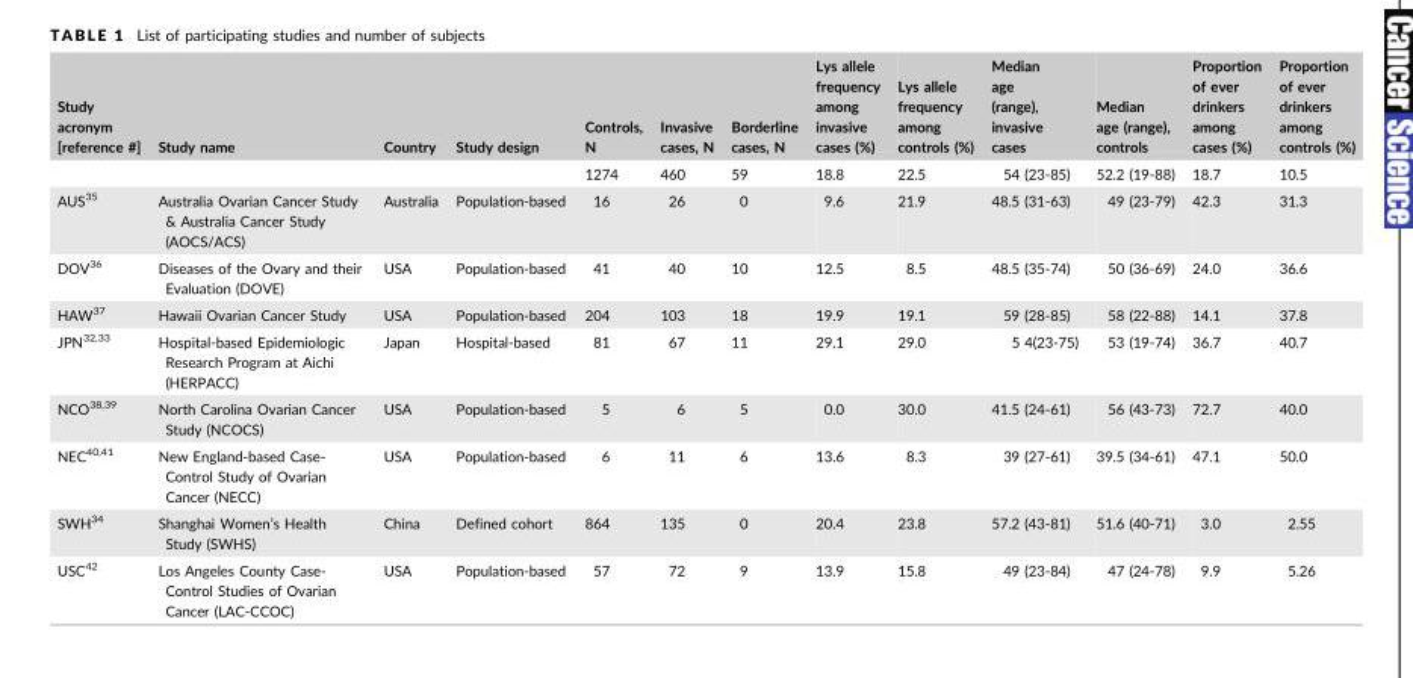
<table><thead><tr><td>Study acronym [reference #]</td><td>Study name</td><td>Country</td><td>Study design</td><td>Controls, N</td><td>Invasive cases, N</td><td>Borderline cases, N</td><td>Lys allele frequency among invasive cases (%)</td><td>Lys allele frequency among controls (%)</td><td>Median age (range), invasive cases</td><td>Median age (range), controls</td><td>Proportion of ever drinkers among cases (%)</td><td>Proportion of ever drinkers among controls (%)</td></tr></thead><tbody><tr><td></td><td></td><td></td><td></td><td>1274</td><td>460</td><td>59</td><td>18.8</td><td>22.5</td><td>54 (23-85)</td><td>52.2 (19-88)</td><td>18.7</td><td>10.5</td></tr><tr><td>AUS<sup>35</sup></td><td>Australia Ovarian Cancer Study &amp; Australia Cancer Study (AOCS/ACS)</td><td>Australia</td><td>Population-based</td><td>16</td><td>26</td><td>0</td><td>9.6</td><td>21.9</td><td>48.5 (31-63)</td><td>49 (23-79)</td><td>42.3</td><td>31.3</td></tr><tr><td>DOV<sup>36</sup></td><td>Diseases of the Ovary and their Evaluation (DOVE)</td><td>USA</td><td>Population-based</td><td>41</td><td>40</td><td>10</td><td>12.5</td><td>8.5</td><td>48.5 (35-74)</td><td>50 (36-69)</td><td>24.0</td><td>36.6</td></tr><tr><td>HAW<sup>37</sup></td><td>Hawaii Ovarian Cancer Study</td><td>USA</td><td>Population-based</td><td>204</td><td>103</td><td>18</td><td>19.9</td><td>19.1</td><td>59 (28-85)</td><td>58 (22-88)</td><td>14.1</td><td>37.8</td></tr><tr><td>JPN<sup>32</sup>,<sup>33</sup></td><td>Hospital-based Epidemiologic Research Program at Aichi (HERPACC)</td><td>Japan</td><td>Hospital-based</td><td>81</td><td>67</td><td>11</td><td>29.1</td><td>29.0</td><td>5 4(23-75)</td><td>53 (19-74)</td><td>36.7</td><td>40.7</td></tr><tr><td>NCO<sup>38</sup>,<sup>39</sup></td><td>North Carolina Ovarian Cancer Study (NCOCS)</td><td>USA</td><td>Population-based</td><td>5</td><td>6</td><td>5</td><td>0.0</td><td>30.0</td><td>41.5 (24-61)</td><td>56 (43-73)</td><td>72.7</td><td>40.0</td></tr><tr><td>NEC<sup>40</sup>,<sup>41</sup></td><td>New England-based Case- Control Study of Ovarian Cancer (NECC)</td><td>USA</td><td>Population-based</td><td>6</td><td>11</td><td>6</td><td>13.6</td><td>8.3</td><td>39 (27-61)</td><td>39.5 (34-61)</td><td>47.1</td><td>50.0</td></tr><tr><td>SWH<sup>34</sup></td><td>Shanghai Women’s Health Study (SWHS)</td><td>China</td><td>Defined cohort</td><td>864</td><td>135</td><td>0</td><td>20.4</td><td>23.8</td><td>57.2 (43-81)</td><td>51.6 (40-71)</td><td>3.0</td><td>2.55</td></tr><tr><td>USC<sup>42</sup></td><td>Los Angeles County Case- Control Studies of Ovarian Cancer (LAC-CCOC)</td><td>USA</td><td>Population-based</td><td>57</td><td>72</td><td>9</td><td>13.9</td><td>15.8</td><td>49 (23-84)</td><td>47 (24-78)</td><td>9.9</td><td>5.26</td></tr></tbody></table>